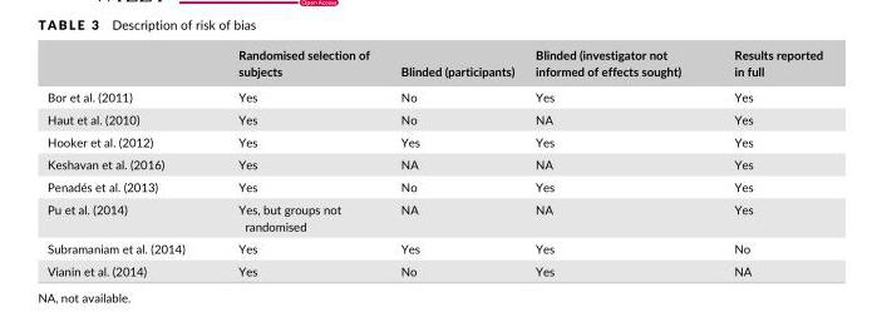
<table><thead><tr><td></td><td>Randomised selection of subjects</td><td>Blinded (participants)</td><td>Blinded (investigator not informed of effects sought)</td><td>Results reported in full</td></tr></thead><tbody><tr><td>Bor et al. (2011)</td><td>Yes</td><td>No</td><td>Yes</td><td>Yes</td></tr><tr><td>Haut et al. (2010)</td><td>Yes</td><td>No</td><td>NA</td><td>Yes</td></tr><tr><td>Hooker et al. (2012)</td><td>Yes</td><td>Yes</td><td>Yes</td><td>Yes</td></tr><tr><td>Keshavan et al. (2016)</td><td>Yes</td><td>NA</td><td>NA</td><td>Yes</td></tr><tr><td>Penadés et al. (2013)</td><td>Yes</td><td>No</td><td>Yes</td><td>Yes</td></tr><tr><td>Pu et al. (2014)</td><td>Yes, but groups not randomised</td><td>NA</td><td>NA</td><td>Yes</td></tr><tr><td>Subramaniam et al. (2014)</td><td>Yes</td><td>Yes</td><td>Yes</td><td>No</td></tr><tr><td>Vianin et al. (2014)</td><td>Yes</td><td>No</td><td>Yes</td><td>NA</td></tr></tbody></table>